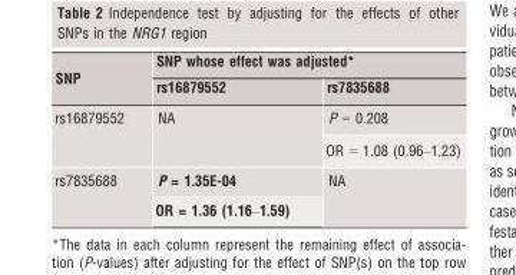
<table><thead><tr><td rowspan="2">SNP</td><td colspan="2">SNP whose effect was adjusted*</td></tr><tr><td>rs16879552</td><td>rs7835688</td></tr></thead><tbody><tr><td rowspan="2">rs16879552</td><td rowspan="2">NA</td><td>P = 0.208</td></tr><tr><td>OR = 1.08 (0.96–1.23)</td></tr><tr><td rowspan="2">rs7835688</td><td>P = 1.35E-04</td><td rowspan="2">NA</td></tr><tr><td>OR = 1.36 (1.16–1.59)</td></tr></tbody></table>